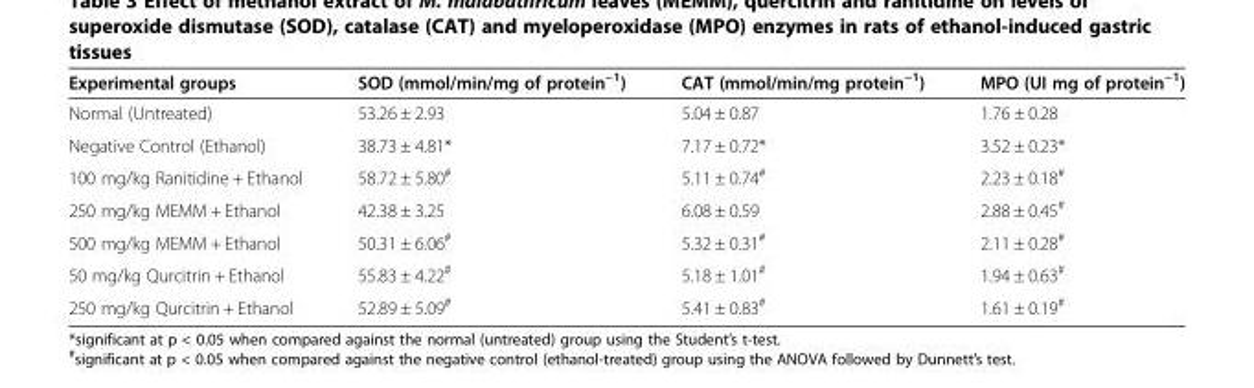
<table><thead><tr><td>Experimental groups</td><td>SOD (mmol/min/mg of protein<sup>−1</sup>)</td><td>CAT (mmol/min/mg protein<sup>−1</sup>)</td><td>MPO (UI mg of protein<sup>−1</sup>)</td></tr></thead><tbody><tr><td>Normal (Untreated)</td><td>53.26 ± 2.93</td><td>5.04 ± 0.87</td><td>1.76 ± 0.28</td></tr><tr><td>Negative Control (Ethanol)</td><td>38.73 ± 4.81*</td><td>7.17 ± 0.72*</td><td>3.52 ± 0.23*</td></tr><tr><td>100 mg/kg Ranitidine + Ethanol</td><td>58.72 ± 5.80<sup>#</sup></td><td>5.11 ± 0.74<sup>#</sup></td><td>2.23 ± 0.18<sup>#</sup></td></tr><tr><td>250 mg/kg MEMM + Ethanol</td><td>42.38 ± 3.25</td><td>6.08 ± 0.59</td><td>2.88 ± 0.45<sup>#</sup></td></tr><tr><td>500 mg/kg MEMM + Ethanol</td><td>50.31 ± 6.06<sup>#</sup></td><td>5.32 ± 0.31<sup>#</sup></td><td>2.11 ± 0.28<sup>#</sup></td></tr><tr><td>50 mg/kg Qurcitrin + Ethanol</td><td>55.83 ± 4.22<sup>#</sup></td><td>5.18 ± 1.01<sup>#</sup></td><td>1.94 ± 0.63<sup>#</sup></td></tr><tr><td>250 mg/kg Qurcitrin + Ethanol</td><td>52.89 ± 5.09<sup>#</sup></td><td>5.41 ± 0.83<sup>#</sup></td><td>1.61 ± 0.19<sup>#</sup></td></tr></tbody></table>